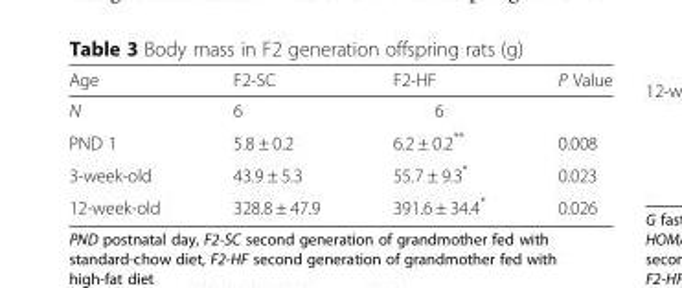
<table><thead><tr><td>Age</td><td>F2-SC</td><td>F2-HF</td><td>P Value</td></tr></thead><tbody><tr><td>N</td><td>6</td><td>6</td><td></td></tr><tr><td>PND 1</td><td>5.8 ± 0.2</td><td>6.2 ± 0.2**</td><td>0.008</td></tr><tr><td>3-week-old</td><td>43.9 ± 5.3</td><td>55.7 ± 9.3*</td><td>0.023</td></tr><tr><td>12-week-old</td><td>328.8 ± 47.9</td><td>391.6 ± 34.4*</td><td>0.026</td></tr></tbody></table>